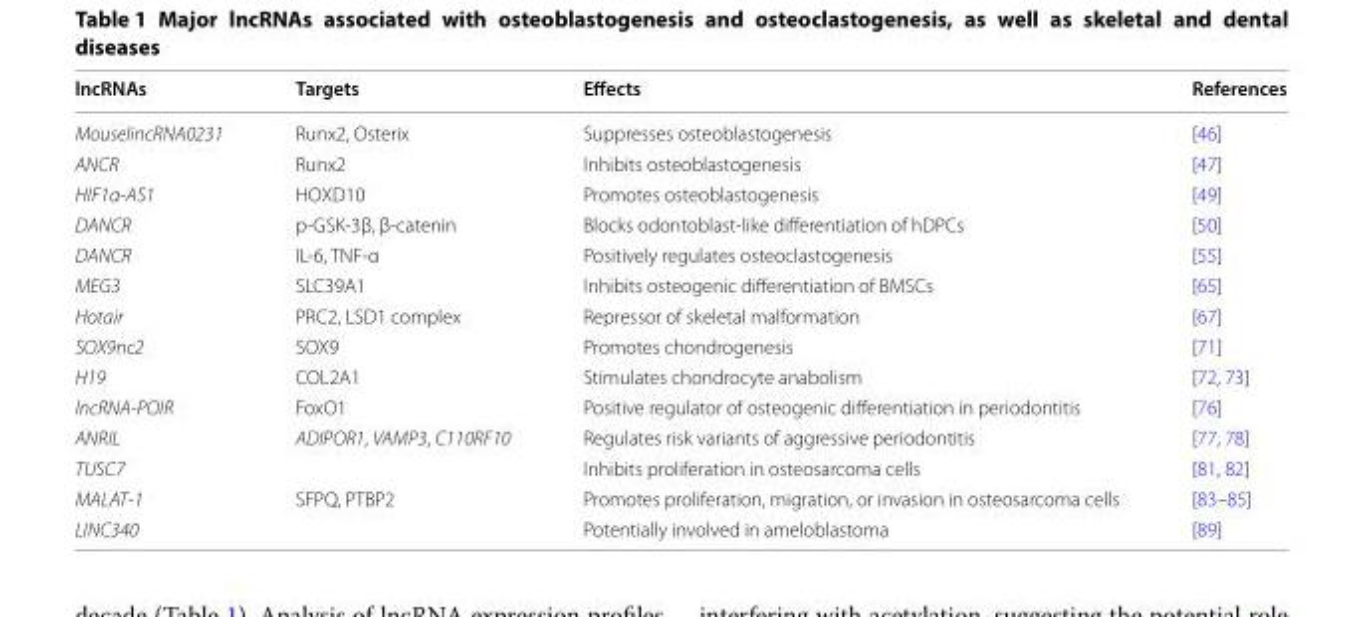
<table><thead><tr><td>lncRNAs</td><td>Targets</td><td>Effects</td><td>References</td></tr></thead><tbody><tr><td>MouselincRNA0231</td><td>Runx2, Osterix</td><td>Suppresses osteoblastogenesis</td><td>[46]</td></tr><tr><td>ANCR</td><td>Runx2</td><td>Inhibits osteoblastogenesis</td><td>[47]</td></tr><tr><td>HIF1α-AS1</td><td>HOXD10</td><td>Promotes osteoblastogenesis</td><td>[49]</td></tr><tr><td>DANCR</td><td>p-GSK-3β, β-catenin</td><td>Blocks odontoblast-like differentiation of hDPCs</td><td>[50]</td></tr><tr><td>DANCR</td><td>IL-6, TNF-α</td><td>Positively regulates osteoclastogenesis</td><td>[55]</td></tr><tr><td>MEG3</td><td>SLC39A1</td><td>Inhibits osteogenic differentiation of BMSCs</td><td>[65]</td></tr><tr><td>Hotair</td><td>PRC2, LSD1 complex</td><td>Repressor of skeletal malformation</td><td>[67]</td></tr><tr><td>SOX9nc2</td><td>SOX9</td><td>Promotes chondrogenesis</td><td>[71]</td></tr><tr><td>H19</td><td>COL2A1</td><td>Stimulates chondrocyte anabolism</td><td>[72, 73]</td></tr><tr><td>lncRNA-POIR</td><td>FoxO1</td><td>Positive regulator of osteogenic differentiation in periodontitis</td><td>[76]</td></tr><tr><td>ANRIL</td><td>ADIPOR1, VAMP3, C110RF10</td><td>Regulates risk variants of aggressive periodontitis</td><td>[77, 78]</td></tr><tr><td>TUSC7</td><td></td><td>Inhibits proliferation in osteosarcoma cells</td><td>[81, 82]</td></tr><tr><td>MALAT-1</td><td>SFPQ, PTBP2</td><td>Promotes proliferation, migration, or invasion in osteosarcoma cells</td><td>[83–85]</td></tr><tr><td>LINC340</td><td></td><td>Potentially involved in ameloblastoma</td><td>[89]</td></tr></tbody></table>